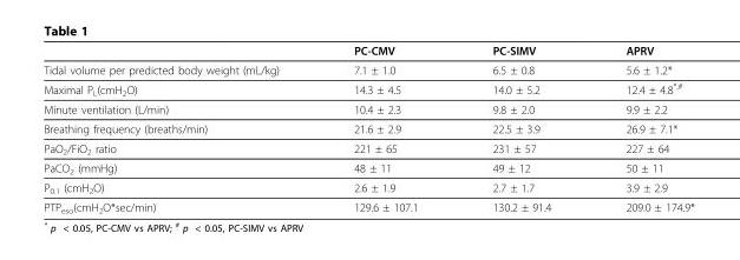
<table><thead><tr><td></td><td>PC-CMV</td><td>PC-SIMV</td><td>APRV</td></tr></thead><tbody><tr><td>Tidal volume per predicted body weight (mL/kg)</td><td>7.1 ± 1.0</td><td>6.5 ± 0.8</td><td>5.6 ± 1.2*</td></tr><tr><td>Maximal P<sub>L</sub>(cmH<sub>2</sub>O)</td><td>14.3 ± 4.5</td><td>14.0 ± 5.2</td><td>12.4 ± 4.8<sup>*,#</sup></td></tr><tr><td>Minute ventilation (L/min)</td><td>10.4 ± 2.3</td><td>9.8 ± 2.0</td><td>9.9 ± 2.2</td></tr><tr><td>Breathing frequency (breaths/min)</td><td>21.6 ± 2.9</td><td>22.5 ± 3.9</td><td>26.9 ± 7.1*</td></tr><tr><td>PaO<sub>2</sub>/FiO<sub>2</sub> ratio</td><td>221 ± 65</td><td>231 ± 57</td><td>227 ± 64</td></tr><tr><td>PaCO<sub>2</sub> (mmHg)</td><td>48 ± 11</td><td>49 ± 12</td><td>50 ± 11</td></tr><tr><td>P<sub>0.1</sub> (cmH<sub>2</sub>O)</td><td>2.6 ± 1.9</td><td>2.7 ± 1.7</td><td>3.9 ± 2.9</td></tr><tr><td>PTP<sub>eso</sub>(cmH<sub>2</sub>O*sec/min)</td><td>129.6 ± 107.1</td><td>130.2 ± 91.4</td><td>209.0 ± 174.9*</td></tr></tbody></table>